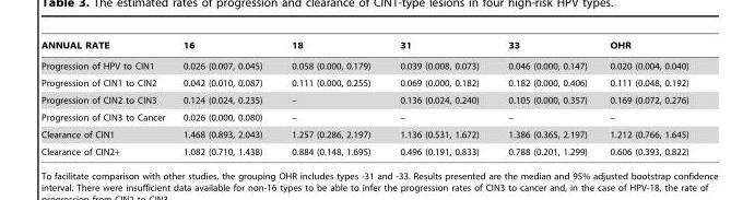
<table><thead><tr><td>ANNUAL RATE</td><td>16</td><td>18</td><td>31</td><td>33</td><td>OHR</td></tr></thead><tbody><tr><td>Progression of HPV to CIN1</td><td>0.026 (0.007, 0.045)</td><td>0.058 (0.000, 0.179)</td><td>0.039 (0.008, 0.073)</td><td>0.046 (0.000, 0.147)</td><td>0.020 (0.004, 0.040)</td></tr><tr><td>Progression of CIN1 to CIN2</td><td>0.042 (0.010, 0.087)</td><td>0.111 (0.000, 0.255)</td><td>0.069 (0.000, 0.182)</td><td>0.182 (0.000, 0.406)</td><td>0.111 (0.048, 0.192)</td></tr><tr><td>Progression of CIN2 to CIN3</td><td>0.124 (0.024, 0.235)</td><td>–</td><td>0.136 (0.024, 0.240)</td><td>0.105 (0.000, 0.357)</td><td>0.169 (0.072, 0.276)</td></tr><tr><td>Progression of CIN3 to Cancer</td><td>0.026 (0.000, 0.080)</td><td>–</td><td>–</td><td>–</td><td>–</td></tr><tr><td>Clearance of CIN1</td><td>1.468 (0.893, 2.043)</td><td>1.257 (0.286, 2.197)</td><td>1.136 (0.531, 1.672)</td><td>1.386 (0.365, 2.197)</td><td>1.212 (0.766, 1.645)</td></tr><tr><td>Clearance of CIN2+</td><td>1.082 (0.710, 1.438)</td><td>0.884 (0.148, 1.695)</td><td>0.496 (0.191, 0.833)</td><td>0.788 (0.201, 1.299)</td><td>0.606 (0.393, 0.822)</td></tr></tbody></table>